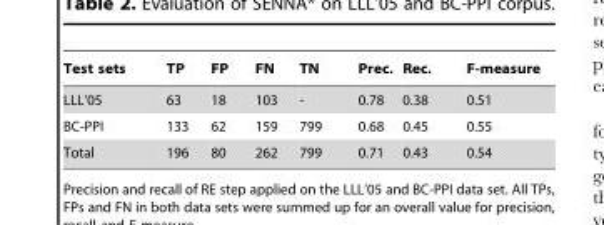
<table><thead><tr><td>Test sets</td><td>TP</td><td>FP</td><td>FN</td><td>TN</td><td>Prec.</td><td>Rec.</td><td>F-measure</td></tr></thead><tbody><tr><td>LLL’05</td><td>63</td><td>18</td><td>103</td><td>-</td><td>0.78</td><td>0.38</td><td>0.51</td></tr><tr><td>BC-PPI</td><td>133</td><td>62</td><td>159</td><td>799</td><td>0.68</td><td>0.45</td><td>0.55</td></tr><tr><td>Total</td><td>196</td><td>80</td><td>262</td><td>799</td><td>0.71</td><td>0.43</td><td>0.54</td></tr></tbody></table>